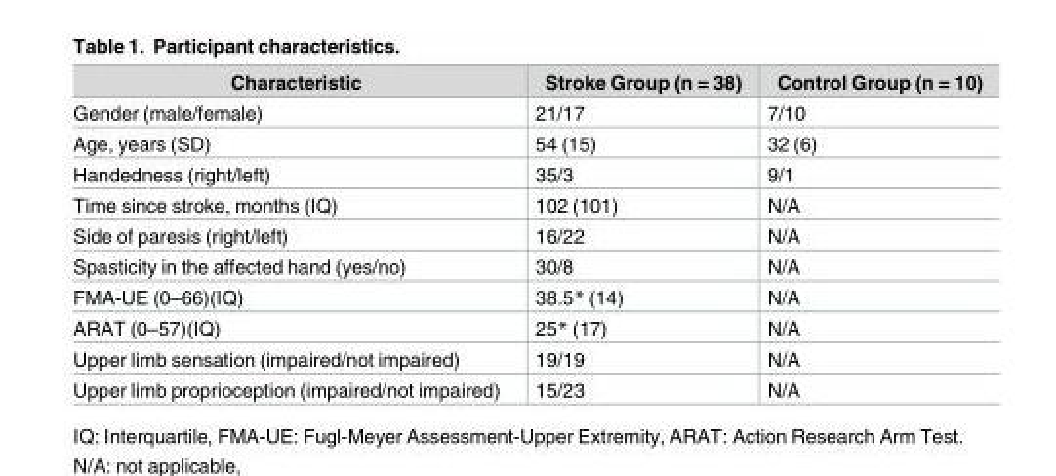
<table><thead><tr><td>Characteristic</td><td>Stroke Group (n = 38)</td><td>Control Group (n = 10)</td></tr></thead><tbody><tr><td>Gender (male/female)</td><td>21/17</td><td>7/10</td></tr><tr><td>Age, years (SD)</td><td>54 (15)</td><td>32 (6)</td></tr><tr><td>Handedness (right/left)</td><td>35/3</td><td>9/1</td></tr><tr><td>Time since stroke, months (IQ)</td><td>102 (101)</td><td>N/A</td></tr><tr><td>Side of paresis (right/left)</td><td>16/22</td><td>N/A</td></tr><tr><td>Spasticity in the affected hand (yes/no)</td><td>30/8</td><td>N/A</td></tr><tr><td>FMA-UE (0–66)(IQ)</td><td>38.5* (14)</td><td>N/A</td></tr><tr><td>ARAT (0–57)(IQ)</td><td>25* (17)</td><td>N/A</td></tr><tr><td>Upper limb sensation (impaired/not impaired)</td><td>19/19</td><td>N/A</td></tr><tr><td>Upper limb proprioception (impaired/not impaired)</td><td>15/23</td><td>N/A</td></tr></tbody></table>